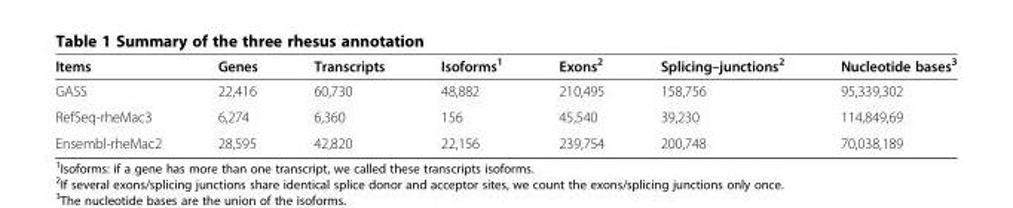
<table><thead><tr><td>Items</td><td>Genes</td><td>Transcripts</td><td>Isoforms<sup>1</sup></td><td>Exons<sup>2</sup></td><td>Splicing–junctions<sup>2</sup></td><td>Nucleotide bases<sup>3</sup></td></tr></thead><tbody><tr><td>GASS</td><td>22,416</td><td>60,730</td><td>48,882</td><td>210,495</td><td>158,756</td><td>95,339,302</td></tr><tr><td>RefSeq-rheMac3</td><td>6,274</td><td>6,360</td><td>156</td><td>45,540</td><td>39,230</td><td>114,849,69</td></tr><tr><td>Ensembl-rheMac2</td><td>28,595</td><td>42,820</td><td>22,156</td><td>239,754</td><td>200,748</td><td>70,038,189</td></tr></tbody></table>